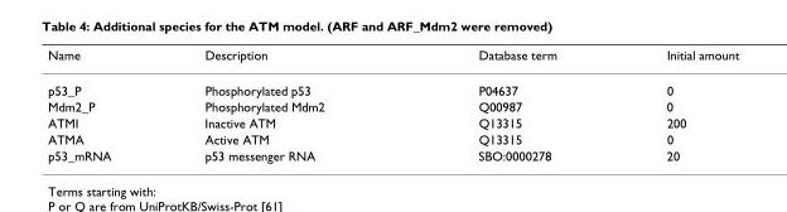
<table><thead><tr><td>Name</td><td>Description</td><td>Database term</td><td>Initial amount</td></tr></thead><tbody><tr><td>p53_P</td><td>Phosphorylated p53</td><td>P04637</td><td>0</td></tr><tr><td>Mdm2_P</td><td>Phosphorylated Mdm2</td><td>Q00987</td><td>0</td></tr><tr><td>ATMI</td><td>Inactive ATM</td><td>Q13315</td><td>200</td></tr><tr><td>ATMA</td><td>Active ATM</td><td>Q13315</td><td>0</td></tr><tr><td>p53_mRNA</td><td>p53 messenger RNA</td><td>SBO:0000278</td><td>20</td></tr></tbody></table>